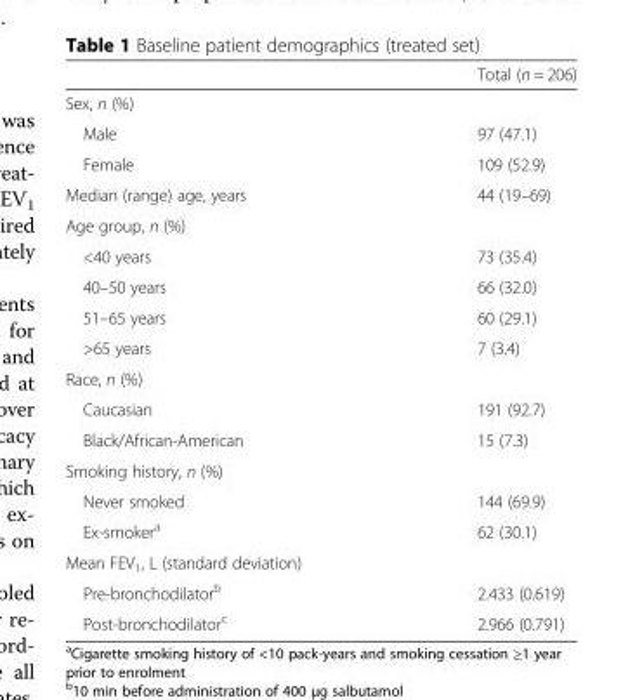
<table><thead><tr><td></td><td>Total (n = 206)</td></tr></thead><tbody><tr><td colspan="2">Sex, n (%)</td></tr><tr><td>Male</td><td>97 (47.1)</td></tr><tr><td>Female</td><td>109 (52.9)</td></tr><tr><td>Median (range) age, years</td><td>44 (19–69)</td></tr><tr><td colspan="2">Age group, n (%)</td></tr><tr><td>&lt;40 years</td><td>73 (35.4)</td></tr><tr><td>40–50 years</td><td>66 (32.0)</td></tr><tr><td>51–65 years</td><td>60 (29.1)</td></tr><tr><td>&gt;65 years</td><td>7 (3.4)</td></tr><tr><td colspan="2">Race, n (%)</td></tr><tr><td>Caucasian</td><td>191 (92.7)</td></tr><tr><td>Black/African-American</td><td>15 (7.3)</td></tr><tr><td colspan="2">Smoking history, n (%)</td></tr><tr><td>Never smoked</td><td>144 (69.9)</td></tr><tr><td>Ex-smoker<sup>a</sup></td><td>62 (30.1)</td></tr><tr><td colspan="2">Mean FEV<sub>1</sub>, L (standard deviation)</td></tr><tr><td>Pre-bronchodilator<sup>b</sup></td><td>2.433 (0.619)</td></tr><tr><td>Post-bronchodilator<sup>c</sup></td><td>2.966 (0.791)</td></tr></tbody></table>